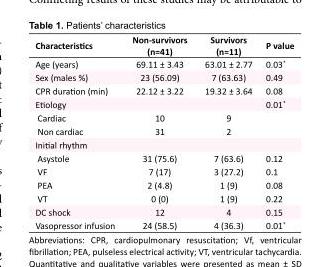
<table><tbody><tr><td>Characteristics</td><td>Non-survivors (n=41)</td><td>Survivors (n=11)</td><td>P value</td></tr><tr><td>Age (years)</td><td>69.11 ± 3.43</td><td>63.01 ± 2.77</td><td>0.03*</td></tr><tr><td>Sex (males %)</td><td>23 (56.09)</td><td>7 (63.63)</td><td>0.49</td></tr><tr><td>CPR duration (min)</td><td>22.12 ± 3.22</td><td>19.32 ± 3.64</td><td>0.08</td></tr><tr><td>Etiology</td><td></td><td></td><td>0.01*</td></tr><tr><td>Cardiac</td><td>10</td><td>9</td><td></td></tr><tr><td>Non cardiac</td><td>31</td><td>2</td><td></td></tr><tr><td colspan="4">Initial rhythm</td></tr><tr><td>Asystole</td><td>31 (75.6)</td><td>7 (63.6)</td><td>0.12</td></tr><tr><td>VF</td><td>7 (17)</td><td>3 (27.2)</td><td>0.1</td></tr><tr><td>PEA</td><td>2 (4.8)</td><td>1 (9)</td><td>0.08</td></tr><tr><td>VT</td><td>0 (0)</td><td>1 (9)</td><td>0.22</td></tr><tr><td>DC shock</td><td>12</td><td>4</td><td>0.15</td></tr><tr><td>Vasopressor infusion</td><td>24 (58.5)</td><td>4 (36.3)</td><td>0.01*</td></tr></tbody></table>